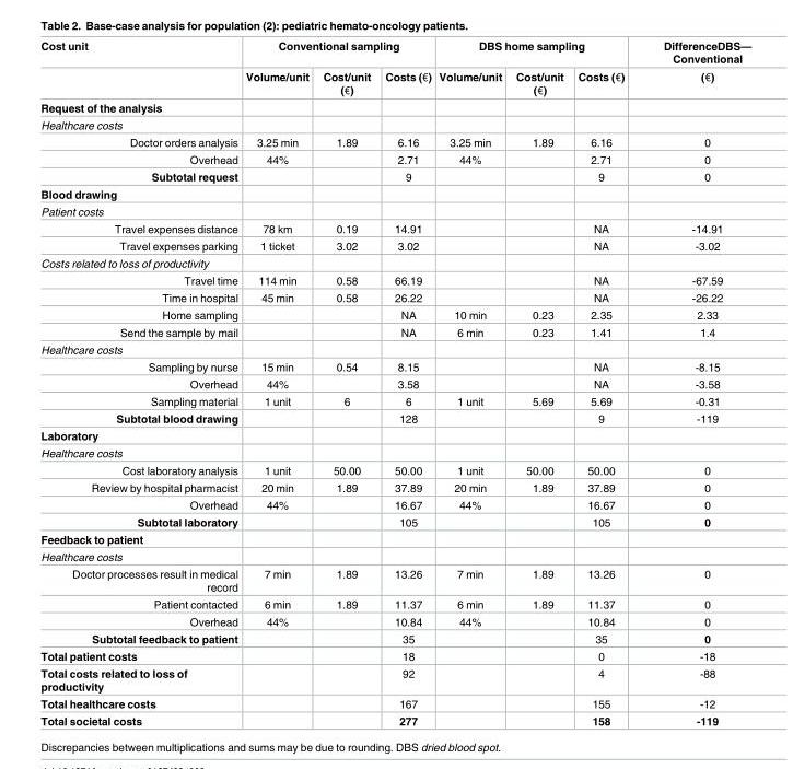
<table><thead><tr><td rowspan="2">Cost unit</td><td colspan="3">Conventional sampling</td><td colspan="3">DBS home sampling</td><td rowspan="2">DifferenceDBS— Conventional (€)</td></tr><tr><td>Volume/unit</td><td>Cost/unit (€)</td><td>Costs (€)</td><td>Volume/unit</td><td>Cost/unit (€)</td><td>Costs (€)</td></tr></thead><tbody><tr><td colspan="8">Request of the analysis</td></tr><tr><td colspan="8">Healthcare costs</td></tr><tr><td>Doctor orders analysis</td><td>3.25 min</td><td>1.89</td><td>6.16</td><td>3.25 min</td><td>1.89</td><td>6.16</td><td>0</td></tr><tr><td>Overhead</td><td>44%</td><td></td><td>2.71</td><td>44%</td><td></td><td>2.71</td><td>0</td></tr><tr><td>Subtotal request</td><td></td><td></td><td>9</td><td></td><td></td><td>9</td><td>0</td></tr><tr><td colspan="8">Blood drawing</td></tr><tr><td colspan="8">Patient costs</td></tr><tr><td>Travel expenses distance</td><td>78 km</td><td>0.19</td><td>14.91</td><td></td><td></td><td>NA</td><td>-14.91</td></tr><tr><td>Travel expenses parking</td><td>1 ticket</td><td>3.02</td><td>3.02</td><td></td><td></td><td>NA</td><td>-3.02</td></tr><tr><td colspan="8">Costs related to loss of productivity</td></tr><tr><td>Travel time</td><td>114 min</td><td>0.58</td><td>66.19</td><td></td><td></td><td>NA</td><td>-67.59</td></tr><tr><td>Time in hospital</td><td>45 min</td><td>0.58</td><td>26.22</td><td></td><td></td><td>NA</td><td>-26.22</td></tr><tr><td>Home sampling</td><td></td><td></td><td>NA</td><td>10 min</td><td>0.23</td><td>2.35</td><td>2.33</td></tr><tr><td>Send the sample by mail</td><td></td><td></td><td>NA</td><td>6 min</td><td>0.23</td><td>1.41</td><td>1.4</td></tr><tr><td colspan="8">Healthcare costs</td></tr><tr><td>Sampling by nurse</td><td>15 min</td><td>0.54</td><td>8.15</td><td></td><td></td><td>NA</td><td>-8.15</td></tr><tr><td>Overhead</td><td>44%</td><td></td><td>3.58</td><td></td><td></td><td>NA</td><td>-3.58</td></tr><tr><td>Sampling material</td><td>1 unit</td><td>6</td><td>6</td><td>1 unit</td><td>5.69</td><td>5.69</td><td>-0.31</td></tr><tr><td>Subtotal blood drawing</td><td></td><td></td><td>128</td><td></td><td></td><td>9</td><td>-119</td></tr><tr><td colspan="8">Laboratory</td></tr><tr><td colspan="8">Healthcare costs</td></tr><tr><td>Cost laboratory analysis</td><td>1 unit</td><td>50.00</td><td>50.00</td><td>1 unit</td><td>50.00</td><td>50.00</td><td>0</td></tr><tr><td>Review by hospital pharmacist</td><td>20 min</td><td>1.89</td><td>37.89</td><td>20 min</td><td>1.89</td><td>37.89</td><td>0</td></tr><tr><td>Overhead</td><td>44%</td><td></td><td>16.67</td><td>44%</td><td></td><td>16.67</td><td>0</td></tr><tr><td>Subtotal laboratory</td><td></td><td></td><td>105</td><td></td><td></td><td>105</td><td>0</td></tr><tr><td colspan="8">Feedback to patient</td></tr><tr><td colspan="8">Healthcare costs</td></tr><tr><td>Doctor processes result in medical record</td><td>7 min</td><td>1.89</td><td>13.26</td><td>7 min</td><td>1.89</td><td>13.26</td><td>0</td></tr><tr><td>Patient contacted</td><td>6 min</td><td>1.89</td><td>11.37</td><td>6 min</td><td>1.89</td><td>11.37</td><td>0</td></tr><tr><td>Overhead</td><td>44%</td><td></td><td>10.84</td><td>44%</td><td></td><td>10.84</td><td>0</td></tr><tr><td>Subtotal feedback to patient</td><td></td><td></td><td>35</td><td></td><td></td><td>35</td><td>0</td></tr><tr><td>Total patient costs</td><td></td><td></td><td>18</td><td></td><td></td><td>0</td><td>-18</td></tr><tr><td>Total costs related to loss of productivity</td><td></td><td></td><td>92</td><td></td><td></td><td>4</td><td>-88</td></tr><tr><td>Total healthcare costs</td><td></td><td></td><td>167</td><td></td><td></td><td>155</td><td>-12</td></tr><tr><td>Total societal costs</td><td></td><td></td><td>277</td><td></td><td></td><td>158</td><td>-119</td></tr></tbody></table>